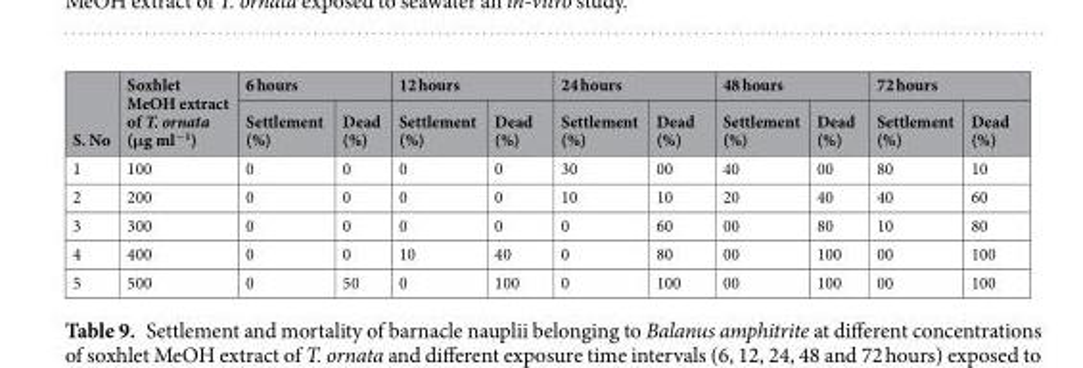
<table><thead><tr><td rowspan="2">S. No</td><td rowspan="2">Soxhlet MeOH extract of T. ornata (μg ml<sup>−1</sup>)</td><td colspan="2">6 hours</td><td colspan="2">12 hours</td><td colspan="2">24 hours</td><td colspan="2">48 hours</td><td colspan="2">72 hours</td></tr><tr><td>Settlement (%)</td><td>Dead (%)</td><td>Settlement (%)</td><td>Dead (%)</td><td>Settlement (%)</td><td>Dead (%)</td><td>Settlement (%)</td><td>Dead (%)</td><td>Settlement (%)</td><td>Dead (%)</td></tr></thead><tbody><tr><td>1</td><td>100</td><td>0</td><td>0</td><td>0</td><td>0</td><td>30</td><td>00</td><td>40</td><td>00</td><td>80</td><td>10</td></tr><tr><td>2</td><td>200</td><td>0</td><td>0</td><td>0</td><td>0</td><td>10</td><td>10</td><td>20</td><td>40</td><td>40</td><td>60</td></tr><tr><td>3</td><td>300</td><td>0</td><td>0</td><td>0</td><td>0</td><td>0</td><td>60</td><td>00</td><td>80</td><td>10</td><td>80</td></tr><tr><td>4</td><td>400</td><td>0</td><td>0</td><td>10</td><td>40</td><td>0</td><td>80</td><td>00</td><td>100</td><td>00</td><td>100</td></tr><tr><td>5</td><td>500</td><td>0</td><td>50</td><td>0</td><td>100</td><td>0</td><td>100</td><td>00</td><td>100</td><td>00</td><td>100</td></tr></tbody></table>